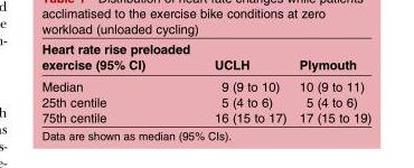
<table><thead><tr><td>Heart rate rise preloaded exercise (95% CI)</td><td>UCLH</td><td>Plymouth</td></tr></thead><tbody><tr><td>Median</td><td>9 (9 to 10)</td><td>10 (9 to 11)</td></tr><tr><td>25th centile</td><td>5 (4 to 6)</td><td>5 (4 to 6)</td></tr><tr><td>75th centile</td><td>16 (15 to 17)</td><td>17 (15 to 19)</td></tr></tbody></table>